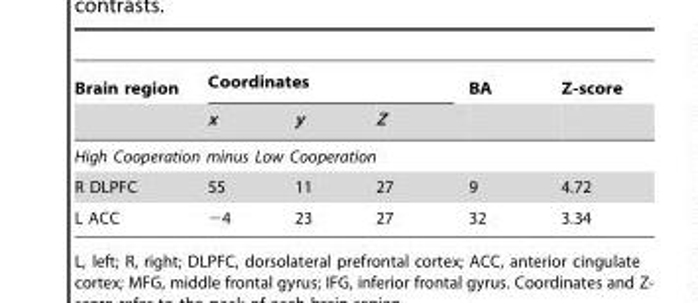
<table><thead><tr><td rowspan="2">Brain region</td><td colspan="3">Coordinates</td><td rowspan="2">BA</td><td rowspan="2">Z-score</td></tr><tr><td>x</td><td>y</td><td>Z</td></tr></thead><tbody><tr><td colspan="6">High Cooperation minus Low Cooperation</td></tr><tr><td>R DLPFC</td><td>55</td><td>11</td><td>27</td><td>9</td><td>4.72</td></tr><tr><td>L ACC</td><td>−4</td><td>23</td><td>27</td><td>32</td><td>3.34</td></tr></tbody></table>